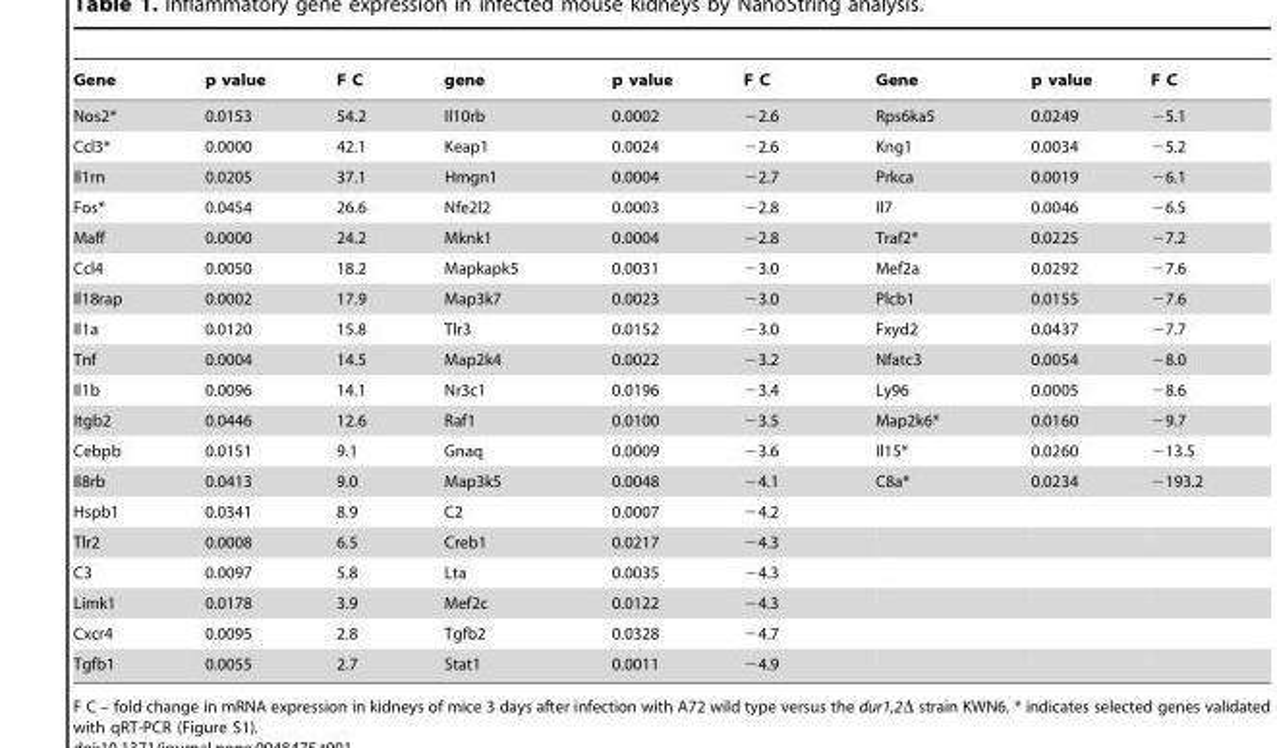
<table><thead><tr><td>Gene</td><td>p value</td><td>F C</td><td>gene</td><td>p value</td><td>F C</td><td>Gene</td><td>p value</td><td>F C</td></tr></thead><tbody><tr><td>Nos2*</td><td>0.0153</td><td>54.2</td><td>Il10rb</td><td>0.0002</td><td>−2.6</td><td>Rps6ka5</td><td>0.0249</td><td>−5.1</td></tr><tr><td>Ccl3*</td><td>0.0000</td><td>42.1</td><td>Keap1</td><td>0.0024</td><td>−2.6</td><td>Kng1</td><td>0.0034</td><td>−5.2</td></tr><tr><td>Il1rn</td><td>0.0205</td><td>37.1</td><td>Hmgn1</td><td>0.0004</td><td>−2.7</td><td>Prkca</td><td>0.0019</td><td>−6.1</td></tr><tr><td>Fos*</td><td>0.0454</td><td>26.6</td><td>Nfe2l2</td><td>0.0003</td><td>−2.8</td><td>Il7</td><td>0.0046</td><td>−6.5</td></tr><tr><td>Maff</td><td>0.0000</td><td>24.2</td><td>Mknk1</td><td>0.0004</td><td>−2.8</td><td>Traf2*</td><td>0.0225</td><td>−7.2</td></tr><tr><td>Ccl4</td><td>0.0050</td><td>18.2</td><td>Mapkapk5</td><td>0.0031</td><td>−3.0</td><td>Mef2a</td><td>0.0292</td><td>−7.6</td></tr><tr><td>Il18rap</td><td>0.0002</td><td>17.9</td><td>Map3k7</td><td>0.0023</td><td>−3.0</td><td>Plcb1</td><td>0.0155</td><td>−7.6</td></tr><tr><td>Il1a</td><td>0.0120</td><td>15.8</td><td>Tlr3</td><td>0.0152</td><td>−3.0</td><td>Fxyd2</td><td>0.0437</td><td>−7.7</td></tr><tr><td>Tnf</td><td>0.0004</td><td>14.5</td><td>Map2k4</td><td>0.0022</td><td>−3.2</td><td>Nfatc3</td><td>0.0054</td><td>−8.0</td></tr><tr><td>Il1b</td><td>0.0096</td><td>14.1</td><td>Nr3c1</td><td>0.0196</td><td>−3.4</td><td>Ly96</td><td>0.0005</td><td>−8.6</td></tr><tr><td>Itgb2</td><td>0.0446</td><td>12.6</td><td>Raf1</td><td>0.0100</td><td>−3.5</td><td>Map2k6*</td><td>0.0160</td><td>−9.7</td></tr><tr><td>Cebpb</td><td>0.0151</td><td>9.1</td><td>Gnaq</td><td>0.0009</td><td>−3.6</td><td>Il15*</td><td>0.0260</td><td>−13.5</td></tr><tr><td>Il8rb</td><td>0.0413</td><td>9.0</td><td>Map3k5</td><td>0.0048</td><td>−4.1</td><td>C8a*</td><td>0.0234</td><td>−193.2</td></tr><tr><td>Hspb1</td><td>0.0341</td><td>8.9</td><td>C2</td><td>0.0007</td><td>−4.2</td><td></td><td></td><td></td></tr><tr><td>Tlr2</td><td>0.0008</td><td>6.5</td><td>Creb1</td><td>0.0217</td><td>−4.3</td><td></td><td></td><td></td></tr><tr><td>C3</td><td>0.0097</td><td>5.8</td><td>Lta</td><td>0.0035</td><td>−4.3</td><td></td><td></td><td></td></tr><tr><td>Limk1</td><td>0.0178</td><td>3.9</td><td>Mef2c</td><td>0.0122</td><td>−4.3</td><td></td><td></td><td></td></tr><tr><td>Cxcr4</td><td>0.0095</td><td>2.8</td><td>Tgfb2</td><td>0.0328</td><td>−4.7</td><td></td><td></td><td></td></tr><tr><td>Tgfb1</td><td>0.0055</td><td>2.7</td><td>Stat1</td><td>0.0011</td><td>−4.9</td><td></td><td></td><td></td></tr></tbody></table>